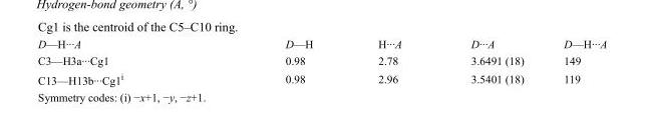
<table><tbody><tr><td>D—H···A</td><td>D—H</td><td>H···A</td><td>D···A</td><td>D—H···A</td></tr><tr><td>C3—H3a···Cg1</td><td>0.98</td><td>2.78</td><td>3.6491 (18)</td><td>149</td></tr><tr><td>C13—H13b···Cg1<sup>i</sup></td><td>0.98</td><td>2.96</td><td>3.5401 (18)</td><td>119</td></tr></tbody></table>